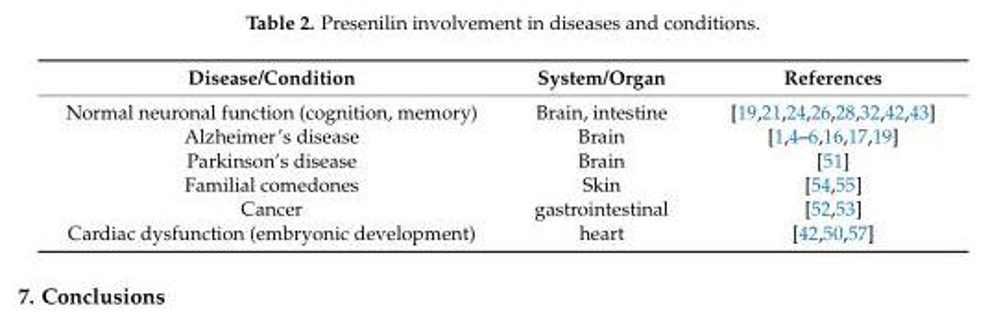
<table><thead><tr><td>Disease/Condition</td><td>System/Organ</td><td>References</td></tr></thead><tbody><tr><td>Normal neuronal function (cognition, memory)</td><td>Brain, intestine</td><td>[19,21,24,26,28,32,42,43]</td></tr><tr><td>Alzheimer’s disease</td><td>Brain</td><td>[1,4–6,16,17,19]</td></tr><tr><td>Parkinson’s disease</td><td>Brain</td><td>[51]</td></tr><tr><td>Familial comedones</td><td>Skin</td><td>[54,55]</td></tr><tr><td>Cancer</td><td>gastrointestinal</td><td>[52,53]</td></tr><tr><td>Cardiac dysfunction (embryonic development)</td><td>heart</td><td>[42,50,57]</td></tr></tbody></table>